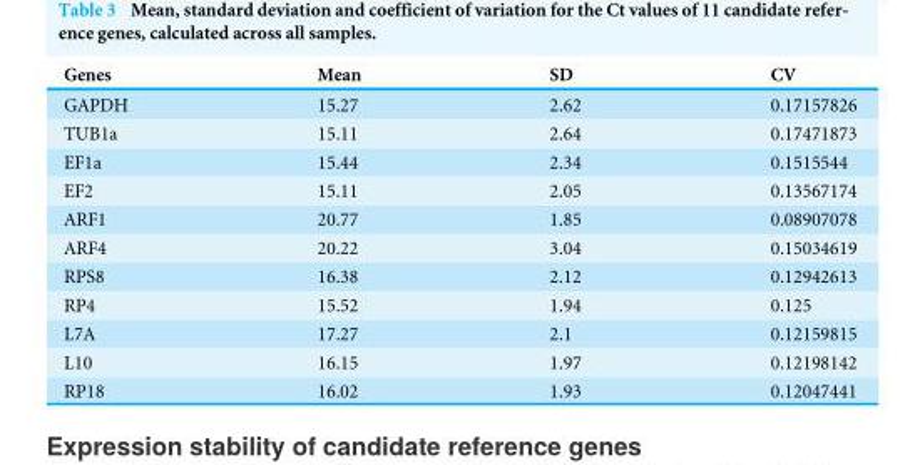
<table><thead><tr><td>Genes</td><td>Mean</td><td>SD</td><td>CV</td></tr></thead><tbody><tr><td>GAPDH</td><td>15.27</td><td>2.62</td><td>0.17157826</td></tr><tr><td>TUB1a</td><td>15.11</td><td>2.64</td><td>0.17471873</td></tr><tr><td>EF1a</td><td>15.44</td><td>2.34</td><td>0.1515544</td></tr><tr><td>EF2</td><td>15.11</td><td>2.05</td><td>0.13567174</td></tr><tr><td>ARF1</td><td>20.77</td><td>1.85</td><td>0.08907078</td></tr><tr><td>ARF4</td><td>20.22</td><td>3.04</td><td>0.15034619</td></tr><tr><td>RPS8</td><td>16.38</td><td>2.12</td><td>0.12942613</td></tr><tr><td>RP4</td><td>15.52</td><td>1.94</td><td>0.125</td></tr><tr><td>L7A</td><td>17.27</td><td>2.1</td><td>0.12159815</td></tr><tr><td>L10</td><td>16.15</td><td>1.97</td><td>0.12198142</td></tr><tr><td>RP18</td><td>16.02</td><td>1.93</td><td>0.12047441</td></tr></tbody></table>